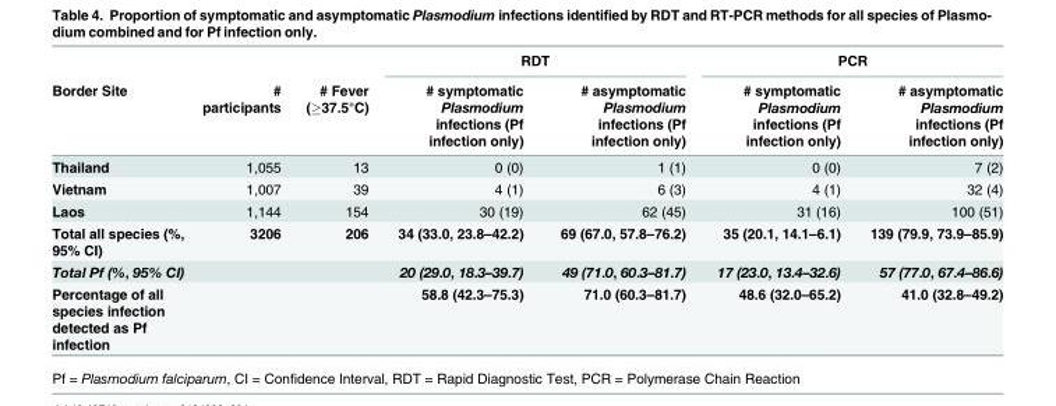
<table><thead><tr><td rowspan="2">Border Site</td><td rowspan="2"># participants</td><td rowspan="2"># Fever (≥37.5°C)</td><td colspan="2">RDT</td><td colspan="2">PCR</td></tr><tr><td># symptomatic Plasmodium infections (Pf infection only)</td><td># asymptomatic Plasmodium infections (Pf infection only)</td><td># symptomatic Plasmodium infections (Pf infection only)</td><td># asymptomatic Plasmodium infections (Pf infection only)</td></tr></thead><tbody><tr><td>Thailand</td><td>1,055</td><td>13</td><td>0 (0)</td><td>1 (1)</td><td>0 (0)</td><td>7 (2)</td></tr><tr><td>Vietnam</td><td>1,007</td><td>39</td><td>4 (1)</td><td>6 (3)</td><td>4 (1)</td><td>32 (4)</td></tr><tr><td>Laos</td><td>1,144</td><td>154</td><td>30 (19)</td><td>62 (45)</td><td>31 (16)</td><td>100 (51)</td></tr><tr><td>Total all species (%, 95% CI)</td><td>3206</td><td>206</td><td>34 (33.0, 23.8–42.2)</td><td>69 (67.0, 57.8–76.2)</td><td>35 (20.1, 14.1–6.1)</td><td>139 (79.9, 73.9–85.9)</td></tr><tr><td>Total Pf (%, 95% CI)</td><td></td><td></td><td>20 (29.0, 18.3–39.7)</td><td>49 (71.0, 60.3–81.7)</td><td>17 (23.0, 13.4–32.6)</td><td>57 (77.0, 67.4–86.6)</td></tr><tr><td>Percentage of all species infection detected as Pf infection</td><td></td><td></td><td>58.8 (42.3–75.3)</td><td>71.0 (60.3–81.7)</td><td>48.6 (32.0–65.2)</td><td>41.0 (32.8–49.2)</td></tr></tbody></table>